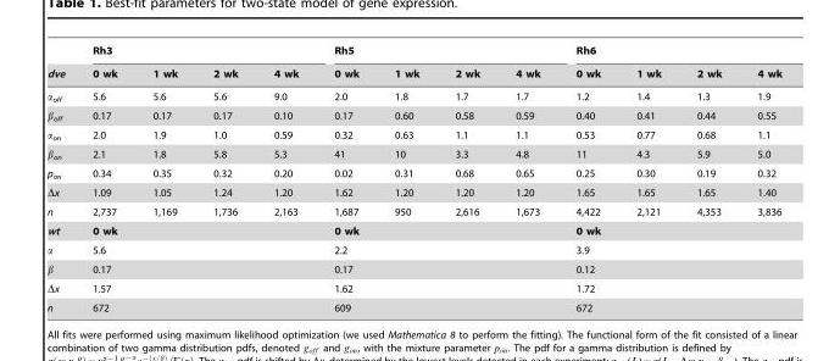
<table><thead><tr><td rowspan="2">dve</td><td colspan="4">Rh3</td><td colspan="4">Rh5</td><td colspan="4">Rh6</td></tr><tr><td>0 wk</td><td>1 wk</td><td>2 wk</td><td>4 wk</td><td>0 wk</td><td>1 wk</td><td>2 wk</td><td>4 wk</td><td>0 wk</td><td>1 wk</td><td>2 wk</td><td>4 wk</td></tr></thead><tbody><tr><td>α<sub>off</sub></td><td>5.6</td><td>5.6</td><td>5.6</td><td>9.0</td><td>2.0</td><td>1.8</td><td>1.7</td><td>1.7</td><td>1.2</td><td>1.4</td><td>1.3</td><td>1.9</td></tr><tr><td>β<sub>off</sub></td><td>0.17</td><td>0.17</td><td>0.17</td><td>0.10</td><td>0.17</td><td>0.60</td><td>0.58</td><td>0.59</td><td>0.40</td><td>0.41</td><td>0.44</td><td>0.55</td></tr><tr><td>α<sub>on</sub></td><td>2.0</td><td>1.9</td><td>1.0</td><td>0.59</td><td>0.32</td><td>0.63</td><td>1.1</td><td>1.1</td><td>0.53</td><td>0.77</td><td>0.68</td><td>1.1</td></tr><tr><td>β<sub>on</sub></td><td>2.1</td><td>1.8</td><td>5.8</td><td>5.3</td><td>41</td><td>10</td><td>3.3</td><td>4.8</td><td>11</td><td>4.3</td><td>5.9</td><td>5.0</td></tr><tr><td>p<sub>on</sub></td><td>0.34</td><td>0.35</td><td>0.32</td><td>0.20</td><td>0.02</td><td>0.31</td><td>0.68</td><td>0.65</td><td>0.25</td><td>0.30</td><td>0.19</td><td>0.32</td></tr><tr><td>Δx</td><td>1.09</td><td>1.05</td><td>1.24</td><td>1.20</td><td>1.62</td><td>1.20</td><td>1.20</td><td>1.20</td><td>1.65</td><td>1.65</td><td>1.65</td><td>1.40</td></tr><tr><td>n</td><td>2,737</td><td>1,169</td><td>1,736</td><td>2,163</td><td>1,687</td><td>950</td><td>2,616</td><td>1,673</td><td>4,422</td><td>2,121</td><td>4,353</td><td>3,836</td></tr><tr><td>wt</td><td colspan="4">0 wk</td><td colspan="4">0 wk</td><td colspan="4">0 wk</td></tr><tr><td>α</td><td colspan="4">5.6</td><td colspan="4">2.2</td><td colspan="4">3.9</td></tr><tr><td>β</td><td colspan="4">0.17</td><td colspan="4">0.17</td><td colspan="4">0.12</td></tr><tr><td>Δx</td><td colspan="4">1.57</td><td colspan="4">1.62</td><td colspan="4">1.72</td></tr><tr><td>n</td><td colspan="4">672</td><td colspan="4">609</td><td colspan="4">672</td></tr></tbody></table>